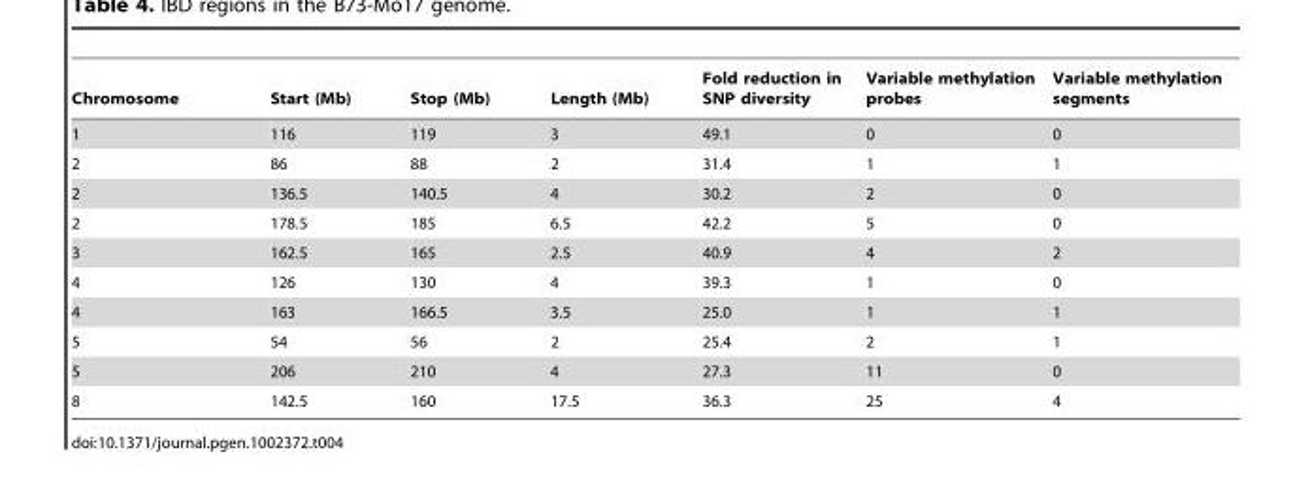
<table><thead><tr><td>Chromosome</td><td>Start (Mb)</td><td>Stop (Mb)</td><td>Length (Mb)</td><td>Fold reduction in SNP diversity</td><td>Variable methylation probes</td><td>Variable methylation segments</td></tr></thead><tbody><tr><td>1</td><td>116</td><td>119</td><td>3</td><td>49.1</td><td>0</td><td>0</td></tr><tr><td>2</td><td>86</td><td>88</td><td>2</td><td>31.4</td><td>1</td><td>1</td></tr><tr><td>2</td><td>136.5</td><td>140.5</td><td>4</td><td>30.2</td><td>2</td><td>0</td></tr><tr><td>2</td><td>178.5</td><td>185</td><td>6.5</td><td>42.2</td><td>5</td><td>0</td></tr><tr><td>3</td><td>162.5</td><td>165</td><td>2.5</td><td>40.9</td><td>4</td><td>2</td></tr><tr><td>4</td><td>126</td><td>130</td><td>4</td><td>39.3</td><td>1</td><td>0</td></tr><tr><td>4</td><td>163</td><td>166.5</td><td>3.5</td><td>25.0</td><td>1</td><td>1</td></tr><tr><td>5</td><td>54</td><td>56</td><td>2</td><td>25.4</td><td>2</td><td>1</td></tr><tr><td>5</td><td>206</td><td>210</td><td>4</td><td>27.3</td><td>11</td><td>0</td></tr><tr><td>8</td><td>142.5</td><td>160</td><td>17.5</td><td>36.3</td><td>25</td><td>4</td></tr></tbody></table>